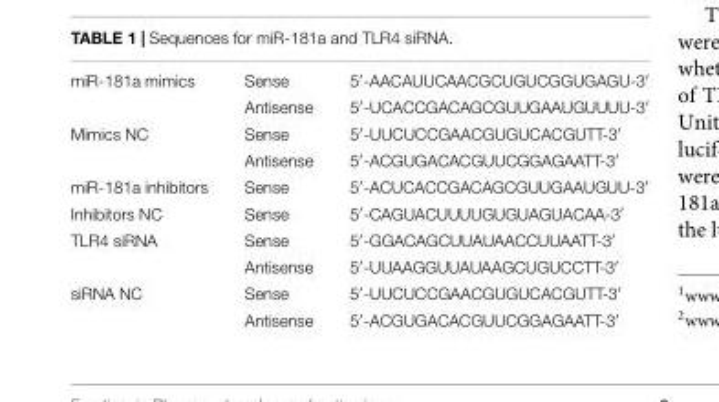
<table><tbody><tr><td rowspan="2">miR-181a mimics</td><td>Sense</td><td>5′-AACAUUCAACGCUGUCGGUGAGU-3′</td></tr><tr><td>Antisense</td><td>5′-UCACCGACAGCGUUGAAUGUUUU-3′</td></tr><tr><td rowspan="2">Mimics NC</td><td>Sense</td><td>5′-UUCUCCGAACGUGUCACGUTT-3′</td></tr><tr><td>Antisense</td><td>5′-ACGUGACACGUUCGGAGAATT-3′</td></tr><tr><td>miR-181a inhibitors</td><td>Sense</td><td>5′-ACUCACCGACAGCGUUGAAUGUU-3′</td></tr><tr><td>Inhibitors NC</td><td>Sense</td><td>5′-CAGUACUUUUGUGUAGUACAA-3′</td></tr><tr><td rowspan="2">TLR4 siRNA</td><td>Sense</td><td>5′-GGACAGCUUAUAACCUUAATT-3′</td></tr><tr><td>Antisense</td><td>5′-UUAAGGUUAUAAGCUGUCCTT-3′</td></tr><tr><td rowspan="2">siRNA NC</td><td>Sense</td><td>5′-UUCUCCGAACGUGUCACGUTT-3′</td></tr><tr><td>Antisense</td><td>5′-ACGUGACACGUUCGGAGAATT-3′</td></tr></tbody></table>